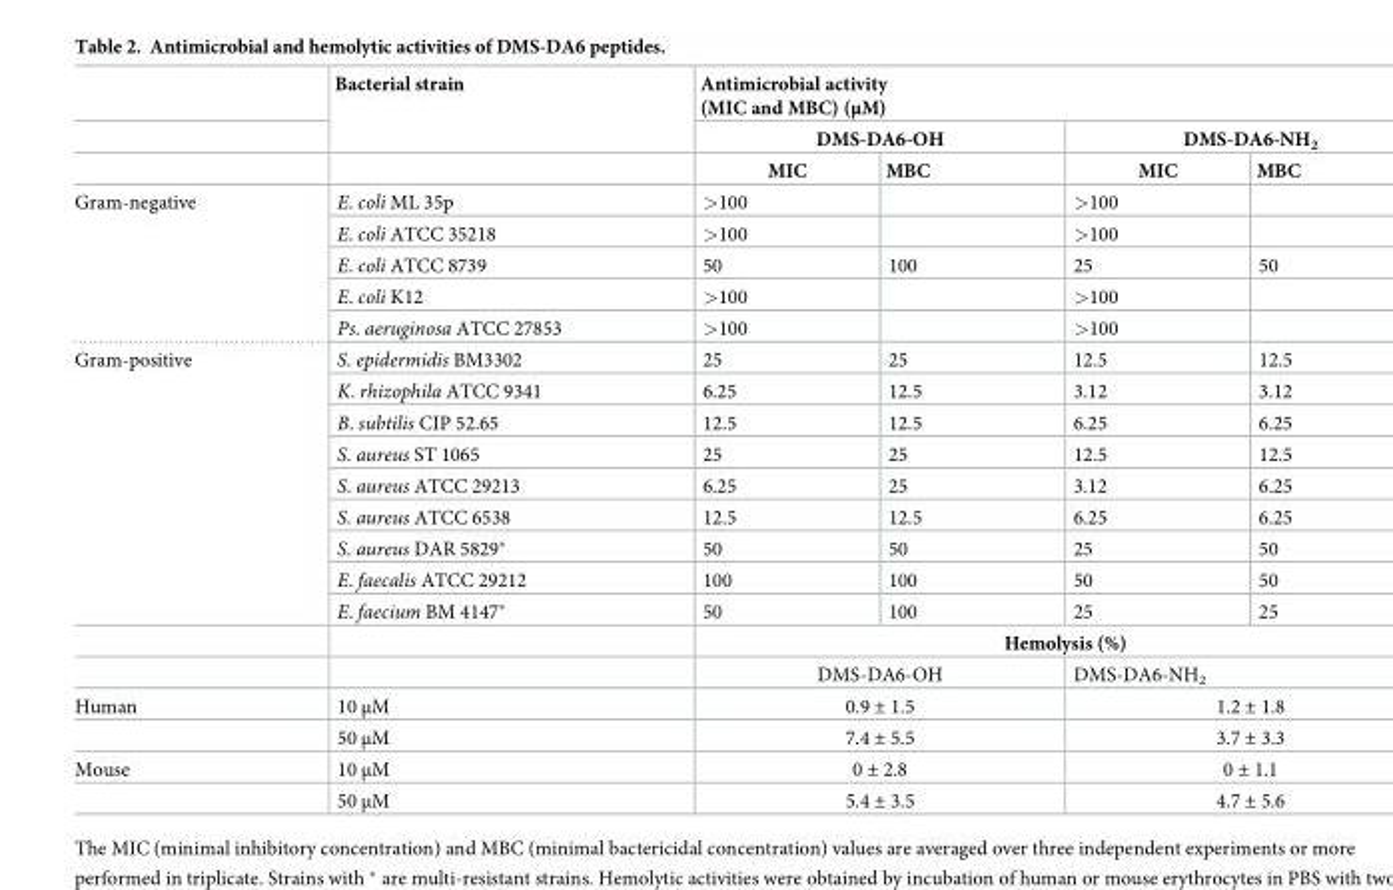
<table><thead><tr><td rowspan="3"></td><td rowspan="3">Bacterial strain</td><td colspan="4">Antimicrobial activity (MIC and MBC) (μM)</td></tr><tr><td colspan="2">DMS-DA6-OH</td><td colspan="2">DMS-DA6-NH<sub>2</sub></td></tr><tr><td>MIC</td><td>MBC</td><td>MIC</td><td>MBC</td></tr></thead><tbody><tr><td rowspan="5">Gram-negative</td><td>E. coli ML 35p</td><td>&gt;100</td><td></td><td>&gt;100</td><td></td></tr><tr><td>E. coli ATCC 35218</td><td>&gt;100</td><td></td><td>&gt;100</td><td></td></tr><tr><td>E. coli ATCC 8739</td><td>50</td><td>100</td><td>25</td><td>50</td></tr><tr><td>E. coli K12</td><td>&gt;100</td><td></td><td>&gt;100</td><td></td></tr><tr><td>Ps. aeruginosa ATCC 27853</td><td>&gt;100</td><td></td><td>&gt;100</td><td></td></tr><tr><td rowspan="11">Gram-positive</td><td>S. epidermidis BM3302</td><td>25</td><td>25</td><td>12.5</td><td>12.5</td></tr><tr><td>K. rhizophila ATCC 9341</td><td>6.25</td><td>12.5</td><td>3.12</td><td>3.12</td></tr><tr><td>B. subtilis CIP 52.65</td><td>12.5</td><td>12.5</td><td>6.25</td><td>6.25</td></tr><tr><td>S. aureus ST 1065</td><td>25</td><td>25</td><td>12.5</td><td>12.5</td></tr><tr><td>S. aureus ATCC 29213</td><td>6.25</td><td>25</td><td>3.12</td><td>6.25</td></tr><tr><td>S. aureus ATCC 6538</td><td>12.5</td><td>12.5</td><td>6.25</td><td>6.25</td></tr><tr><td>S. aureus DAR 5829*</td><td>50</td><td>50</td><td>25</td><td>50</td></tr><tr><td>E. faecalis ATCC 29212</td><td>100</td><td>100</td><td>50</td><td>50</td></tr><tr><td>E. faecium BM 4147*</td><td>50</td><td>100</td><td>25</td><td>25</td></tr><tr><td></td><td colspan="4">Hemolysis (%)</td></tr><tr><td></td><td colspan="2">DMS-DA6-OH</td><td colspan="2">DMS-DA6-NH<sub>2</sub></td></tr><tr><td rowspan="2">Human</td><td>10 μM</td><td colspan="2">0.9 ± 1.5</td><td colspan="2">1.2 ± 1.8</td></tr><tr><td>50 μM</td><td colspan="2">7.4 ± 5.5</td><td colspan="2">3.7 ± 3.3</td></tr><tr><td rowspan="2">Mouse</td><td>10 μM</td><td colspan="2">0 ± 2.8</td><td colspan="2">0 ± 1.1</td></tr><tr><td>50 μM</td><td colspan="2">5.4 ± 3.5</td><td colspan="2">4.7 ± 5.6</td></tr></tbody></table>